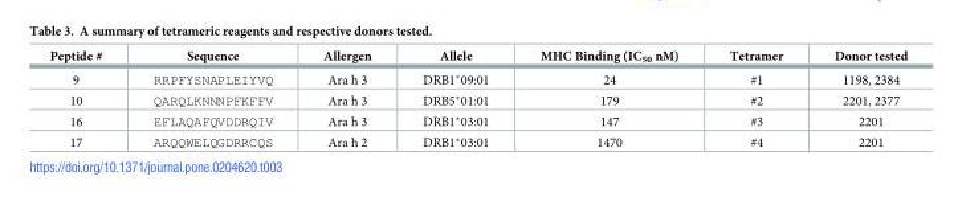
<table><thead><tr><td>Peptide #</td><td>Sequence</td><td>Allergen</td><td>Allele</td><td>MHC Binding (IC<sub>50</sub> nM)</td><td>Tetramer</td><td>Donor tested</td></tr></thead><tbody><tr><td>9</td><td>RRPFYSNAPLEIYVQ</td><td>Ara h 3</td><td>DRB1*09:01</td><td>24</td><td>#1</td><td>1198, 2384</td></tr><tr><td>10</td><td>QARQLKNNNPFKFFV</td><td>Ara h 3</td><td>DRB5*01:01</td><td>179</td><td>#2</td><td>2201, 2377</td></tr><tr><td>16</td><td>EFLAQAFQVDDRQIV</td><td>Ara h 3</td><td>DRB1*03:01</td><td>147</td><td>#3</td><td>2201</td></tr><tr><td>17</td><td>ARQQWELQGDRRCQS</td><td>Ara h 2</td><td>DRB1*03:01</td><td>1470</td><td>#4</td><td>2201</td></tr></tbody></table>